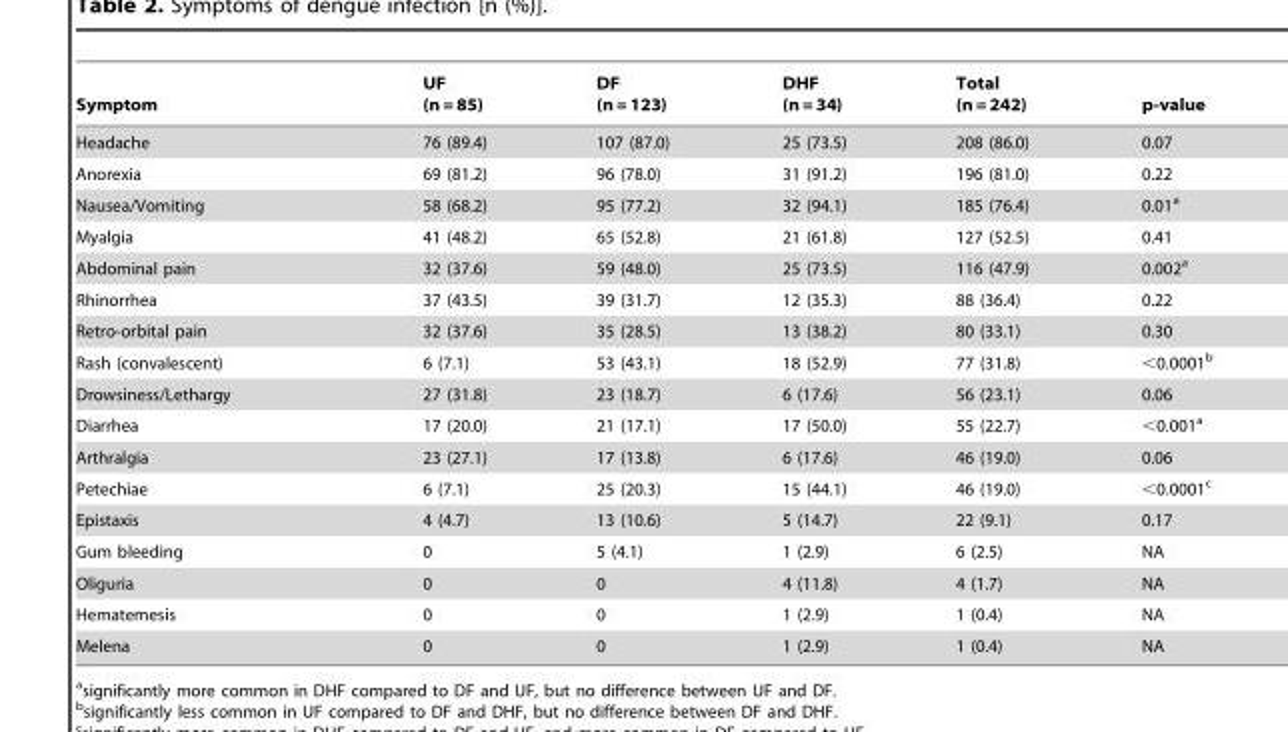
<table><thead><tr><td>Symptom</td><td>UF (n = 85)</td><td>DF (n = 123)</td><td>DHF (n = 34)</td><td>Total (n = 242)</td><td>p-value</td></tr></thead><tbody><tr><td>Headache</td><td>76 (89.4)</td><td>107 (87.0)</td><td>25 (73.5)</td><td>208 (86.0)</td><td>0.07</td></tr><tr><td>Anorexia</td><td>69 (81.2)</td><td>96 (78.0)</td><td>31 (91.2)</td><td>196 (81.0)</td><td>0.22</td></tr><tr><td>Nausea/Vomiting</td><td>58 (68.2)</td><td>95 (77.2)</td><td>32 (94.1)</td><td>185 (76.4)</td><td>0.01<sup>a</sup></td></tr><tr><td>Myalgia</td><td>41 (48.2)</td><td>65 (52.8)</td><td>21 (61.8)</td><td>127 (52.5)</td><td>0.41</td></tr><tr><td>Abdominal pain</td><td>32 (37.6)</td><td>59 (48.0)</td><td>25 (73.5)</td><td>116 (47.9)</td><td>0.002<sup>a</sup></td></tr><tr><td>Rhinorrhea</td><td>37 (43.5)</td><td>39 (31.7)</td><td>12 (35.3)</td><td>88 (36.4)</td><td>0.22</td></tr><tr><td>Retro-orbital pain</td><td>32 (37.6)</td><td>35 (28.5)</td><td>13 (38.2)</td><td>80 (33.1)</td><td>0.30</td></tr><tr><td>Rash (convalescent)</td><td>6 (7.1)</td><td>53 (43.1)</td><td>18 (52.9)</td><td>77 (31.8)</td><td>&lt;0.0001<sup>b</sup></td></tr><tr><td>Drowsiness/Lethargy</td><td>27 (31.8)</td><td>23 (18.7)</td><td>6 (17.6)</td><td>56 (23.1)</td><td>0.06</td></tr><tr><td>Diarrhea</td><td>17 (20.0)</td><td>21 (17.1)</td><td>17 (50.0)</td><td>55 (22.7)</td><td>&lt;0.001<sup>a</sup></td></tr><tr><td>Arthralgia</td><td>23 (27.1)</td><td>17 (13.8)</td><td>6 (17.6)</td><td>46 (19.0)</td><td>0.06</td></tr><tr><td>Petechiae</td><td>6 (7.1)</td><td>25 (20.3)</td><td>15 (44.1)</td><td>46 (19.0)</td><td>&lt;0.0001<sup>c</sup></td></tr><tr><td>Epistaxis</td><td>4 (4.7)</td><td>13 (10.6)</td><td>5 (14.7)</td><td>22 (9.1)</td><td>0.17</td></tr><tr><td>Gum bleeding</td><td>0</td><td>5 (4.1)</td><td>1 (2.9)</td><td>6 (2.5)</td><td>NA</td></tr><tr><td>Oliguria</td><td>0</td><td>0</td><td>4 (11.8)</td><td>4 (1.7)</td><td>NA</td></tr><tr><td>Hematemesis</td><td>0</td><td>0</td><td>1 (2.9)</td><td>1 (0.4)</td><td>NA</td></tr><tr><td>Melena</td><td>0</td><td>0</td><td>1 (2.9)</td><td>1 (0.4)</td><td>NA</td></tr></tbody></table>